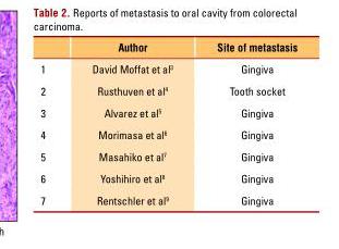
<table><thead><tr><td></td><td>Author</td><td>Site of metastasis</td></tr></thead><tbody><tr><td>1</td><td>David Moffat et al<sup>3</sup></td><td>Gingiva</td></tr><tr><td>2</td><td>Rusthuven et al<sup>4</sup></td><td>Tooth socket</td></tr><tr><td>3</td><td>Alvarez et al<sup>5</sup></td><td>Gingiva</td></tr><tr><td>4</td><td>Morimasa et al<sup>6</sup></td><td>Gingiva</td></tr><tr><td>5</td><td>Masahiko et al<sup>7</sup></td><td>Gingiva</td></tr><tr><td>6</td><td>Yoshihiro et al<sup>8</sup></td><td>Gingiva</td></tr><tr><td>7</td><td>Rentschler et al<sup>9</sup></td><td>Gingiva</td></tr></tbody></table>